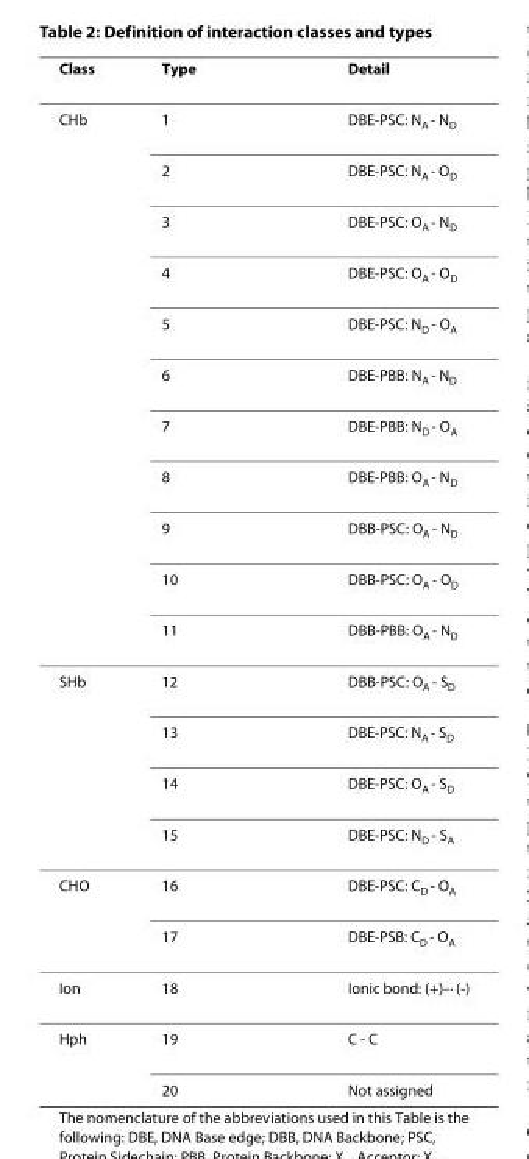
<table><thead><tr><td>Class</td><td>Type</td><td>Detail</td></tr></thead><tbody><tr><td rowspan="11">CHb</td><td>1</td><td>DBE-PSC: N<sub>A</sub> - N<sub>D</sub></td></tr><tr><td>2</td><td>DBE-PSC: N<sub>A</sub> - O<sub>D</sub></td></tr><tr><td>3</td><td>DBE-PSC: O<sub>A</sub> - N<sub>D</sub></td></tr><tr><td>4</td><td>DBE-PSC: O<sub>A</sub> - O<sub>D</sub></td></tr><tr><td>5</td><td>DBE-PSC: N<sub>D</sub> - O<sub>A</sub></td></tr><tr><td>6</td><td>DBE-PBB: N<sub>A</sub> - N<sub>D</sub></td></tr><tr><td>7</td><td>DBE-PBB: N<sub>D</sub> - O<sub>A</sub></td></tr><tr><td>8</td><td>DBE-PBB: O<sub>A</sub> - N<sub>D</sub></td></tr><tr><td>9</td><td>DBB-PSC: O<sub>A</sub> - N<sub>D</sub></td></tr><tr><td>10</td><td>DBB-PSC: O<sub>A</sub> - O<sub>D</sub></td></tr><tr><td>11</td><td>DBB-PBB: O<sub>A</sub> - N<sub>D</sub></td></tr><tr><td rowspan="4">SHb</td><td>12</td><td>DBB-PSC: O<sub>A</sub> - S<sub>D</sub></td></tr><tr><td>13</td><td>DBE-PSC: N<sub>A</sub> - S<sub>D</sub></td></tr><tr><td>14</td><td>DBE-PSC: O<sub>A</sub> - S<sub>D</sub></td></tr><tr><td>15</td><td>DBE-PSC: N<sub>D</sub> - S<sub>A</sub></td></tr><tr><td rowspan="2">CHO</td><td>16</td><td>DBE-PSC: C<sub>D</sub> - O<sub>A</sub></td></tr><tr><td>17</td><td>DBE-PSB: C<sub>D</sub> - O<sub>A</sub></td></tr><tr><td>Ion</td><td>18</td><td>Ionic bond: (+)··· (-)</td></tr><tr><td rowspan="2">Hph</td><td>19</td><td>C - C</td></tr><tr><td>20</td><td>Not assigned</td></tr></tbody></table>